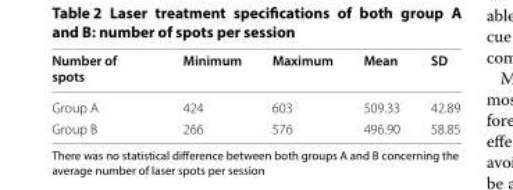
<table><thead><tr><td>Number of spots</td><td>Minimum</td><td>Maximum</td><td>Mean</td><td>SD</td></tr></thead><tbody><tr><td>Group A</td><td>424</td><td>603</td><td>509.33</td><td>42.89</td></tr><tr><td>Group B</td><td>266</td><td>576</td><td>496.90</td><td>58.85</td></tr></tbody></table>